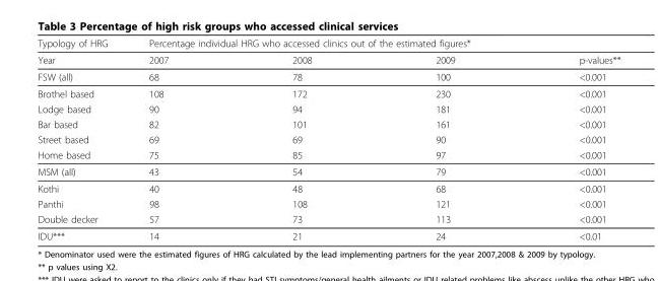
<table><thead><tr><td rowspan="2">Typology of HRG Year</td><td colspan="3">Percentage individual HRG who accessed clinics out of the estimated figures*</td><td rowspan="2">p-values**</td></tr><tr><td>2007</td><td>2008</td><td>2009</td></tr></thead><tbody><tr><td>FSW (all)</td><td>68</td><td>78</td><td>100</td><td>&lt;0.001</td></tr><tr><td>Brothel based</td><td>108</td><td>172</td><td>230</td><td>&lt;0.001</td></tr><tr><td>Lodge based</td><td>90</td><td>94</td><td>181</td><td>&lt;0.001</td></tr><tr><td>Bar based</td><td>82</td><td>101</td><td>161</td><td>&lt;0.001</td></tr><tr><td>Street based</td><td>69</td><td>69</td><td>90</td><td>&lt;0.001</td></tr><tr><td>Home based</td><td>75</td><td>85</td><td>97</td><td>&lt;0.001</td></tr><tr><td>MSM (all)</td><td>43</td><td>54</td><td>79</td><td>&lt;0.001</td></tr><tr><td>Kothi</td><td>40</td><td>48</td><td>68</td><td>&lt;0.001</td></tr><tr><td>Panthi</td><td>98</td><td>108</td><td>121</td><td>&lt;0.001</td></tr><tr><td>Double decker</td><td>57</td><td>73</td><td>113</td><td>&lt;0.001</td></tr><tr><td>IDU***</td><td>14</td><td>21</td><td>24</td><td>&lt;0.01</td></tr></tbody></table>